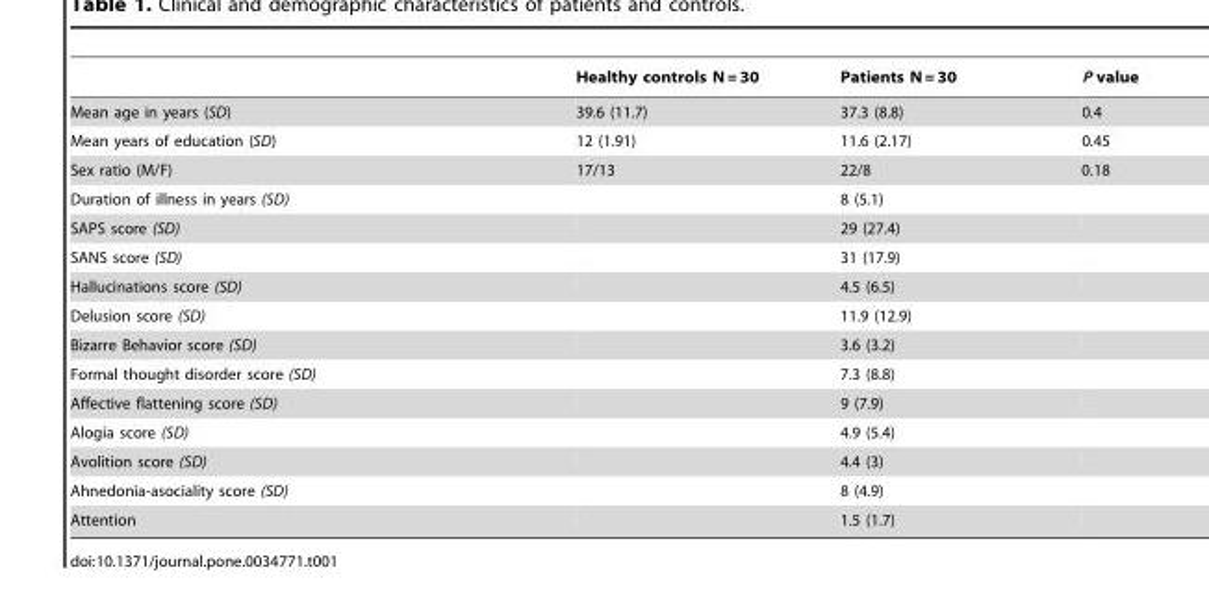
<table><thead><tr><td></td><td>Healthy controls N = 30</td><td>Patients N = 30</td><td>P value</td></tr></thead><tbody><tr><td>Mean age in years (SD)</td><td>39.6 (11.7)</td><td>37.3 (8.8)</td><td>0.4</td></tr><tr><td>Mean years of education (SD)</td><td>12 (1.91)</td><td>11.6 (2.17)</td><td>0.45</td></tr><tr><td>Sex ratio (M/F)</td><td>17/13</td><td>22/8</td><td>0.18</td></tr><tr><td>Duration of illness in years (SD)</td><td></td><td>8 (5.1)</td><td></td></tr><tr><td>SAPS score (SD)</td><td></td><td>29 (27.4)</td><td></td></tr><tr><td>SANS score (SD)</td><td></td><td>31 (17.9)</td><td></td></tr><tr><td>Hallucinations score (SD)</td><td></td><td>4.5 (6.5)</td><td></td></tr><tr><td>Delusion score (SD)</td><td></td><td>11.9 (12.9)</td><td></td></tr><tr><td>Bizarre Behavior score (SD)</td><td></td><td>3.6 (3.2)</td><td></td></tr><tr><td>Formal thought disorder score (SD)</td><td></td><td>7.3 (8.8)</td><td></td></tr><tr><td>Affective flattening score (SD)</td><td></td><td>9 (7.9)</td><td></td></tr><tr><td>Alogia score (SD)</td><td></td><td>4.9 (5.4)</td><td></td></tr><tr><td>Avolition score (SD)</td><td></td><td>4.4 (3)</td><td></td></tr><tr><td>Ahnedonia-asociality score (SD)</td><td></td><td>8 (4.9)</td><td></td></tr><tr><td>Attention</td><td></td><td>1.5 (1.7)</td><td></td></tr></tbody></table>